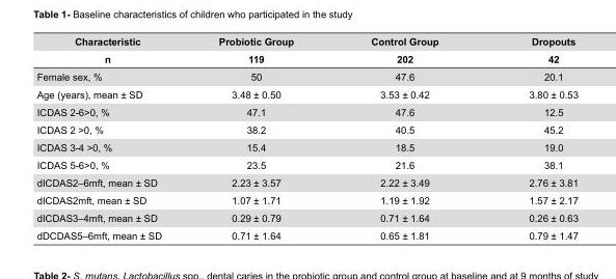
<table><thead><tr><td rowspan="2">Characteristic n</td><td rowspan="2">Probiotic Group 119</td><td rowspan="2">Control Group 202</td><td rowspan="2">Dropouts 42</td></tr><tr></tr></thead><tbody><tr><td>Female sex, %</td><td>50</td><td>47.6</td><td>20.1</td></tr><tr><td>Age (years), mean ± SD</td><td>3.48 ± 0.50</td><td>3.53 ± 0.42</td><td>3.80 ± 0.53</td></tr><tr><td>ICDAS 2-6&gt;0, %</td><td>47.1</td><td>47.6</td><td>12.5</td></tr><tr><td>ICDAS 2 &gt;0, %</td><td>38.2</td><td>40.5</td><td>45.2</td></tr><tr><td>ICDAS 3-4 &gt;0, %</td><td>15.4</td><td>18.5</td><td>19.0</td></tr><tr><td>ICDAS 5-6&gt;0, %</td><td>23.5</td><td>21.6</td><td>38.1</td></tr><tr><td>dICDAS2–6mft, mean ± SD</td><td>2.23 ± 3.57</td><td>2.22 ± 3.49</td><td>2.76 ± 3.81</td></tr><tr><td>dICDAS2mft, mean ± SD</td><td>1.07 ± 1.71</td><td>1.19 ± 1.92</td><td>1.57 ± 2.17</td></tr><tr><td>dICDAS3–4mft, mean ± SD</td><td>0.29 ± 0.79</td><td>0.71 ± 1.64</td><td>0.26 ± 0.63</td></tr><tr><td>dDCDAS5–6mft, mean ± SD</td><td>0.71 ± 1.64</td><td>0.65 ± 1.81</td><td>0.79 ± 1.47</td></tr></tbody></table>